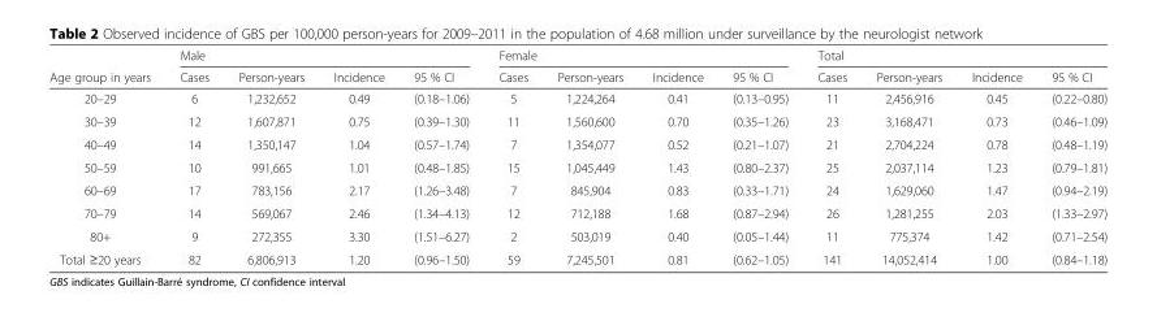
<table><thead><tr><td rowspan="2">Age group in years</td><td colspan="4">Male</td><td colspan="4">Female</td><td colspan="4">Total</td></tr><tr><td>Cases</td><td>Person-years</td><td>Incidence</td><td>95 % CI</td><td>Cases</td><td>Person-years</td><td>Incidence</td><td>95 % CI</td><td>Cases</td><td>Person-years</td><td>Incidence</td><td>95 % CI</td></tr></thead><tbody><tr><td>20–29</td><td>6</td><td>1,232,652</td><td>0.49</td><td>(0.18–1.06)</td><td>5</td><td>1,224,264</td><td>0.41</td><td>(0.13–0.95)</td><td>11</td><td>2,456,916</td><td>0.45</td><td>(0.22–0.80)</td></tr><tr><td>30–39</td><td>12</td><td>1,607,871</td><td>0.75</td><td>(0.39–1.30)</td><td>11</td><td>1,560,600</td><td>0.70</td><td>(0.35–1.26)</td><td>23</td><td>3,168,471</td><td>0.73</td><td>(0.46–1.09)</td></tr><tr><td>40–49</td><td>14</td><td>1,350,147</td><td>1.04</td><td>(0.57–1.74)</td><td>7</td><td>1,354,077</td><td>0.52</td><td>(0.21–1.07)</td><td>21</td><td>2,704,224</td><td>0.78</td><td>(0.48–1.19)</td></tr><tr><td>50–59</td><td>10</td><td>991,665</td><td>1.01</td><td>(0.48–1.85)</td><td>15</td><td>1,045,449</td><td>1.43</td><td>(0.80–2.37)</td><td>25</td><td>2,037,114</td><td>1.23</td><td>(0.79–1.81)</td></tr><tr><td>60–69</td><td>17</td><td>783,156</td><td>2.17</td><td>(1.26–3.48)</td><td>7</td><td>845,904</td><td>0.83</td><td>(0.33–1.71)</td><td>24</td><td>1,629,060</td><td>1.47</td><td>(0.94–2.19)</td></tr><tr><td>70–79</td><td>14</td><td>569,067</td><td>2.46</td><td>(1.34–4.13)</td><td>12</td><td>712,188</td><td>1.68</td><td>(0.87–2.94)</td><td>26</td><td>1,281,255</td><td>2.03</td><td>(1.33–2.97)</td></tr><tr><td>80+</td><td>9</td><td>272,355</td><td>3.30</td><td>(1.51–6.27)</td><td>2</td><td>503,019</td><td>0.40</td><td>(0.05–1.44)</td><td>11</td><td>775,374</td><td>1.42</td><td>(0.71–2.54)</td></tr><tr><td>Total ≥20 years</td><td>82</td><td>6,806,913</td><td>1.20</td><td>(0.96–1.50)</td><td>59</td><td>7,245,501</td><td>0.81</td><td>(0.62–1.05)</td><td>141</td><td>14,052,414</td><td>1.00</td><td>(0.84–1.18)</td></tr></tbody></table>